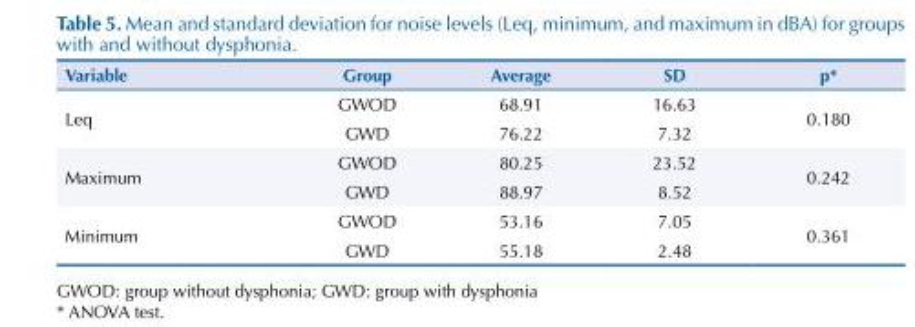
<table><thead><tr><td>Variable</td><td>Group</td><td>Average</td><td>SD</td><td>p*</td></tr></thead><tbody><tr><td rowspan="2">Leq</td><td>GWOD</td><td>68.91</td><td>16.63</td><td rowspan="2">0.180</td></tr><tr><td>GWD</td><td>76.22</td><td>7.32</td></tr><tr><td rowspan="2">Maximum</td><td>GWOD</td><td>80.25</td><td>23.52</td><td rowspan="2">0.242</td></tr><tr><td>GWD</td><td>88.97</td><td>8.52</td></tr><tr><td rowspan="2">Minimum</td><td>GWOD</td><td>53.16</td><td>7.05</td><td rowspan="2">0.361</td></tr><tr><td>GWD</td><td>55.18</td><td>2.48</td></tr></tbody></table>